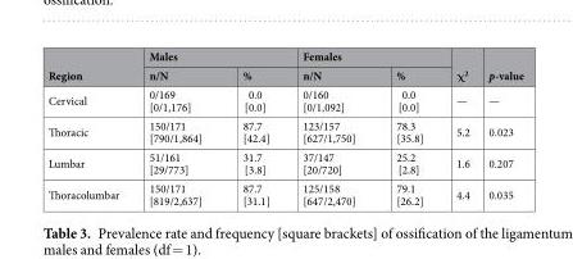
<table><thead><tr><td rowspan="2">Region</td><td colspan="2">Males</td><td colspan="2">Females</td><td rowspan="2">χ<sup>2</sup></td><td rowspan="2">p-value</td></tr><tr><td>n/N</td><td>%</td><td>n/N</td><td>%</td></tr></thead><tbody><tr><td>Cervical</td><td>0/169 [0/1,176]</td><td>0.0 [0.0]</td><td>0/160 [0/1,092]</td><td>0.0 [0.0]</td><td>—</td><td>—</td></tr><tr><td>Thoracic</td><td>150/171 [790/1,864]</td><td>87.7 [42.4]</td><td>123/157 [627/1,750]</td><td>78.3 [35.8]</td><td>5.2</td><td>0.023</td></tr><tr><td>Lumbar</td><td>51/161 [29/773]</td><td>31.7 [3.8]</td><td>37/147 [20/720]</td><td>25.2 [2.8]</td><td>1.6</td><td>0.207</td></tr><tr><td>Thoracolumbar</td><td>150/171 [819/2,637]</td><td>87.7 [31.1]</td><td>125/158 [647/2,470]</td><td>79.1 [26.2]</td><td>4.4</td><td>0.035</td></tr></tbody></table>